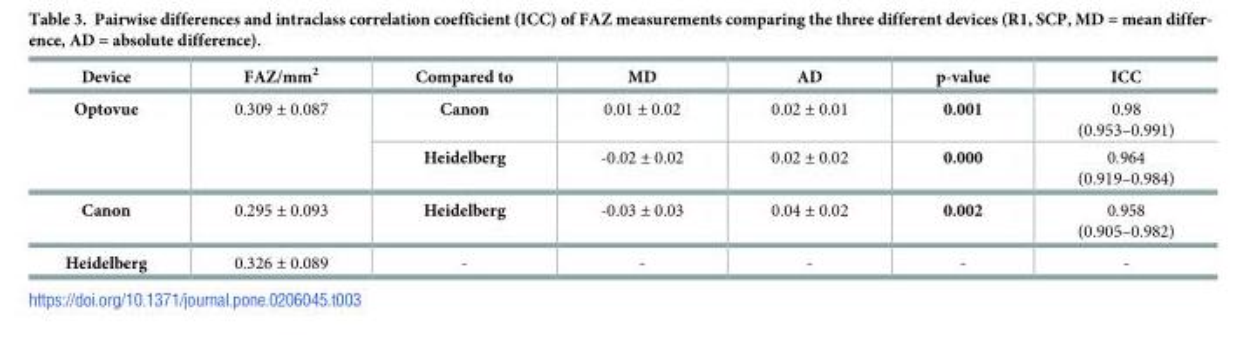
<table><thead><tr><td>Device</td><td>FAZ/mm<sup>2</sup></td><td>Compared to</td><td>MD</td><td>AD</td><td>p-value</td><td>ICC</td></tr></thead><tbody><tr><td rowspan="2">Optovue</td><td rowspan="2">0.309 ± 0.087</td><td>Canon</td><td>0.01 ± 0.02</td><td>0.02 ± 0.01</td><td>0.001</td><td>0.98 (0.953–0.991)</td></tr><tr><td>Heidelberg</td><td>-0.02 ± 0.02</td><td>0.02 ± 0.02</td><td>0.000</td><td>0.964 (0.919–0.984)</td></tr><tr><td>Canon</td><td>0.295 ± 0.093</td><td>Heidelberg</td><td>-0.03 ± 0.03</td><td>0.04 ± 0.02</td><td>0.002</td><td>0.958 (0.905–0.982)</td></tr><tr><td>Heidelberg</td><td>0.326 ± 0.089</td><td>-</td><td>-</td><td>-</td><td>-</td><td>-</td></tr></tbody></table>